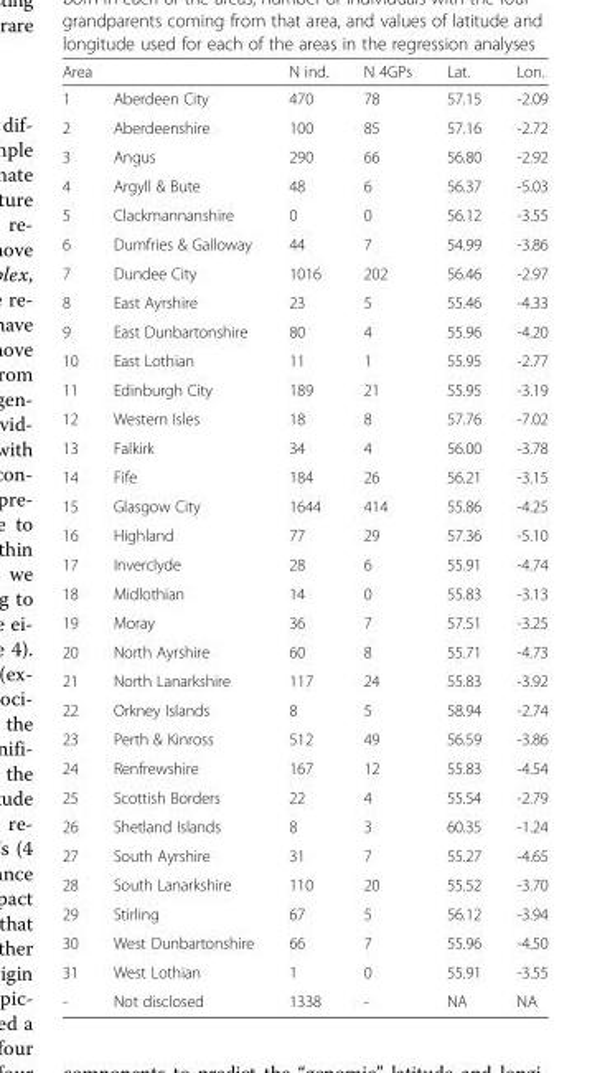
<table><thead><tr><td colspan="2">Area</td><td rowspan="2">N ind. 470</td><td rowspan="2">N 4GPs 78</td><td rowspan="2">Lat. 57.15</td><td rowspan="2">Lon. -2.09</td></tr><tr><td>1</td><td>Aberdeen City</td></tr></thead><tbody><tr><td>2</td><td>Aberdeenshire</td><td>100</td><td>85</td><td>57.16</td><td>-2.72</td></tr><tr><td>3</td><td>Angus</td><td>290</td><td>66</td><td>56.80</td><td>-2.92</td></tr><tr><td>4</td><td>Argyll &amp; Bute</td><td>48</td><td>6</td><td>56.37</td><td>-5.03</td></tr><tr><td>5</td><td>Clackmannanshire</td><td>0</td><td>0</td><td>56.12</td><td>-3.55</td></tr><tr><td>6</td><td>Dumfries &amp; Galloway</td><td>44</td><td>7</td><td>54.99</td><td>-3.86</td></tr><tr><td>7</td><td>Dundee City</td><td>1016</td><td>202</td><td>56.46</td><td>-2.97</td></tr><tr><td>8</td><td>East Ayrshire</td><td>23</td><td>5</td><td>55.46</td><td>-4.33</td></tr><tr><td>9</td><td>East Dunbartonshire</td><td>80</td><td>4</td><td>55.96</td><td>-4.20</td></tr><tr><td>10</td><td>East Lothian</td><td>11</td><td>1</td><td>55.95</td><td>-2.77</td></tr><tr><td>11</td><td>Edinburgh City</td><td>189</td><td>21</td><td>55.95</td><td>-3.19</td></tr><tr><td>12</td><td>Western Isles</td><td>18</td><td>8</td><td>57.76</td><td>-7.02</td></tr><tr><td>13</td><td>Falkirk</td><td>34</td><td>4</td><td>56.00</td><td>-3.78</td></tr><tr><td>14</td><td>Fife</td><td>184</td><td>26</td><td>56.21</td><td>-3.15</td></tr><tr><td>15</td><td>Glasgow City</td><td>1644</td><td>414</td><td>55.86</td><td>-4.25</td></tr><tr><td>16</td><td>Highland</td><td>77</td><td>29</td><td>57.36</td><td>-5.10</td></tr><tr><td>17</td><td>Inverclyde</td><td>28</td><td>6</td><td>55.91</td><td>-4.74</td></tr><tr><td>18</td><td>Midlothian</td><td>14</td><td>0</td><td>55.83</td><td>-3.13</td></tr><tr><td>19</td><td>Moray</td><td>36</td><td>7</td><td>57.51</td><td>-3.25</td></tr><tr><td>20</td><td>North Ayrshire</td><td>60</td><td>8</td><td>55.71</td><td>-4.73</td></tr><tr><td>21</td><td>North Lanarkshire</td><td>117</td><td>24</td><td>55.83</td><td>-3.92</td></tr><tr><td>22</td><td>Orkney Islands</td><td>8</td><td>5</td><td>58.94</td><td>-2.74</td></tr><tr><td>23</td><td>Perth &amp; Kinross</td><td>512</td><td>49</td><td>56.59</td><td>-3.86</td></tr><tr><td>24</td><td>Renfrewshire</td><td>167</td><td>12</td><td>55.83</td><td>-4.54</td></tr><tr><td>25</td><td>Scottish Borders</td><td>22</td><td>4</td><td>55.54</td><td>-2.79</td></tr><tr><td>26</td><td>Shetland Islands</td><td>8</td><td>3</td><td>60.35</td><td>-1.24</td></tr><tr><td>27</td><td>South Ayrshire</td><td>31</td><td>7</td><td>55.27</td><td>-4.65</td></tr><tr><td>28</td><td>South Lanarkshire</td><td>110</td><td>20</td><td>55.52</td><td>-3.70</td></tr><tr><td>29</td><td>Stirling</td><td>67</td><td>5</td><td>56.12</td><td>-3.94</td></tr><tr><td>30</td><td>West Dunbartonshire</td><td>66</td><td>7</td><td>55.96</td><td>-4.50</td></tr><tr><td>31</td><td>West Lothian</td><td>1</td><td>0</td><td>55.91</td><td>-3.55</td></tr><tr><td>-</td><td>Not disclosed</td><td>1338</td><td>-</td><td>NA</td><td>NA</td></tr></tbody></table>